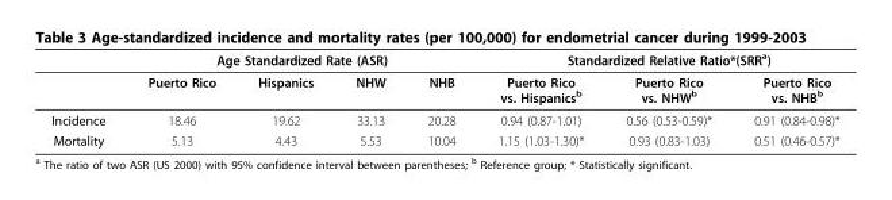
<table><thead><tr><td rowspan="2"></td><td colspan="4">Age Standardized Rate (ASR)</td><td colspan="3">Standardized Relative Ratio*(SRR<sup>a</sup>)</td></tr><tr><td>Puerto Rico</td><td>Hispanics</td><td>NHW</td><td>NHB</td><td>Puerto Rico vs. Hispanics<sup>b</sup></td><td>Puerto Rico vs. NHW<sup>b</sup></td><td>Puerto Rico vs. NHB<sup>b</sup></td></tr></thead><tbody><tr><td>Incidence</td><td>18.46</td><td>19.62</td><td>33.13</td><td>20.28</td><td>0.94 (0.87-1.01)</td><td>0.56 (0.53-0.59)*</td><td>0.91 (0.84-0.98)*</td></tr><tr><td>Mortality</td><td>5.13</td><td>4.43</td><td>5.53</td><td>10.04</td><td>1.15 (1.03-1.30)*</td><td>0.93 (0.83-1.03)</td><td>0.51 (0.46-0.57)*</td></tr></tbody></table>